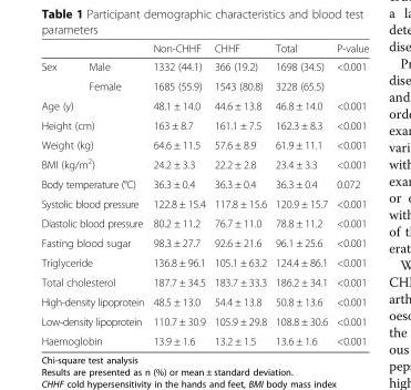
<table><thead><tr><td></td><td></td><td>Non-CHHF</td><td>CHHF</td><td>Total</td><td>P-value</td></tr></thead><tbody><tr><td rowspan="2">Sex</td><td>Male</td><td>1332 (44.1)</td><td>366 (19.2)</td><td>1698 (34.5)</td><td rowspan="2">&lt;0.001</td></tr><tr><td>Female</td><td>1685 (55.9)</td><td>1543 (80.8)</td><td>3228 (65.5)</td></tr><tr><td colspan="2">Age (y)</td><td>48.1 ± 14.0</td><td>44.6 ± 13.8</td><td>46.8 ± 14.0</td><td>&lt;0.001</td></tr><tr><td colspan="2">Height (cm)</td><td>163 ± 8.7</td><td>161.1 ± 7.5</td><td>162.3 ± 8.3</td><td>&lt;0.001</td></tr><tr><td colspan="2">Weight (kg)</td><td>64.6 ± 11.5</td><td>57.6 ± 8.9</td><td>61.9 ± 11.1</td><td>&lt;0.001</td></tr><tr><td colspan="2">BMI (kg/m<sup>2</sup>)</td><td>24.2 ± 3.3</td><td>22.2 ± 2.8</td><td>23.4 ± 3.3</td><td>&lt;0.001</td></tr><tr><td colspan="2">Body temperature (°C)</td><td>36.3 ± 0.4</td><td>36.3 ± 0.4</td><td>36.3 ± 0.4</td><td>0.072</td></tr><tr><td colspan="2">Systolic blood pressure</td><td>122.8 ± 15.4</td><td>117.8 ± 15.6</td><td>120.9 ± 15.7</td><td>&lt;0.001</td></tr><tr><td colspan="2">Diastolic blood pressure</td><td>80.2 ± 11.2</td><td>76.7 ± 11.0</td><td>78.8 ± 11.2</td><td>&lt;0.001</td></tr><tr><td colspan="2">Fasting blood sugar</td><td>98.3 ± 27.7</td><td>92.6 ± 21.6</td><td>96.1 ± 25.6</td><td>&lt;0.001</td></tr><tr><td colspan="2">Triglyceride</td><td>136.8 ± 96.1</td><td>105.1 ± 63.2</td><td>124.4 ± 86.1</td><td>&lt;0.001</td></tr><tr><td colspan="2">Total cholesterol</td><td>187.7 ± 34.5</td><td>183.7 ± 33.3</td><td>186.2 ± 34.1</td><td>&lt;0.001</td></tr><tr><td colspan="2">High-density lipoprotein</td><td>48.5 ± 13.0</td><td>54.4 ± 13.8</td><td>50.8 ± 13.6</td><td>&lt;0.001</td></tr><tr><td colspan="2">Low-density lipoprotein</td><td>110.7 ± 30.9</td><td>105.9 ± 29.8</td><td>108.8 ± 30.6</td><td>&lt;0.001</td></tr><tr><td colspan="2">Haemoglobin</td><td>13.9 ± 1.6</td><td>13.2 ± 1.5</td><td>13.6 ± 1.6</td><td>&lt;0.001</td></tr></tbody></table>